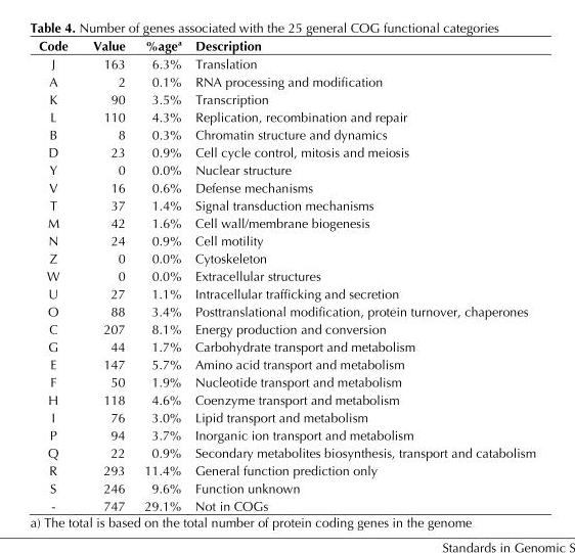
<table><thead><tr><td>Code</td><td>Value</td><td>%age<sup>a</sup></td><td>Description</td></tr></thead><tbody><tr><td>J</td><td>163</td><td>6.3%</td><td>Translation</td></tr><tr><td>A</td><td>2</td><td>0.1%</td><td>RNA processing and modification</td></tr><tr><td>K</td><td>90</td><td>3.5%</td><td>Transcription</td></tr><tr><td>L</td><td>110</td><td>4.3%</td><td>Replication, recombination and repair</td></tr><tr><td>B</td><td>8</td><td>0.3%</td><td>Chromatin structure and dynamics</td></tr><tr><td>D</td><td>23</td><td>0.9%</td><td>Cell cycle control, mitosis and meiosis</td></tr><tr><td>Y</td><td>0</td><td>0.0%</td><td>Nuclear structure</td></tr><tr><td>V</td><td>16</td><td>0.6%</td><td>Defense mechanisms</td></tr><tr><td>T</td><td>37</td><td>1.4%</td><td>Signal transduction mechanisms</td></tr><tr><td>M</td><td>42</td><td>1.6%</td><td>Cell wall/membrane biogenesis</td></tr><tr><td>N</td><td>24</td><td>0.9%</td><td>Cell motility</td></tr><tr><td>Z</td><td>0</td><td>0.0%</td><td>Cytoskeleton</td></tr><tr><td>W</td><td>0</td><td>0.0%</td><td>Extracellular structures</td></tr><tr><td>U</td><td>27</td><td>1.1%</td><td>Intracellular trafficking and secretion</td></tr><tr><td>O</td><td>88</td><td>3.4%</td><td>Posttranslational modification, protein turnover, chaperones</td></tr><tr><td>C</td><td>207</td><td>8.1%</td><td>Energy production and conversion</td></tr><tr><td>G</td><td>44</td><td>1.7%</td><td>Carbohydrate transport and metabolism</td></tr><tr><td>E</td><td>147</td><td>5.7%</td><td>Amino acid transport and metabolism</td></tr><tr><td>F</td><td>50</td><td>1.9%</td><td>Nucleotide transport and metabolism</td></tr><tr><td>H</td><td>118</td><td>4.6%</td><td>Coenzyme transport and metabolism</td></tr><tr><td>I</td><td>76</td><td>3.0%</td><td>Lipid transport and metabolism</td></tr><tr><td>P</td><td>94</td><td>3.7%</td><td>Inorganic ion transport and metabolism</td></tr><tr><td>Q</td><td>22</td><td>0.9%</td><td>Secondary metabolites biosynthesis, transport and catabolism</td></tr><tr><td>R</td><td>293</td><td>11.4%</td><td>General function prediction only</td></tr><tr><td>S</td><td>246</td><td>9.6%</td><td>Function unknown</td></tr><tr><td>-</td><td>747</td><td>29.1%</td><td>Not in COGs</td></tr></tbody></table>